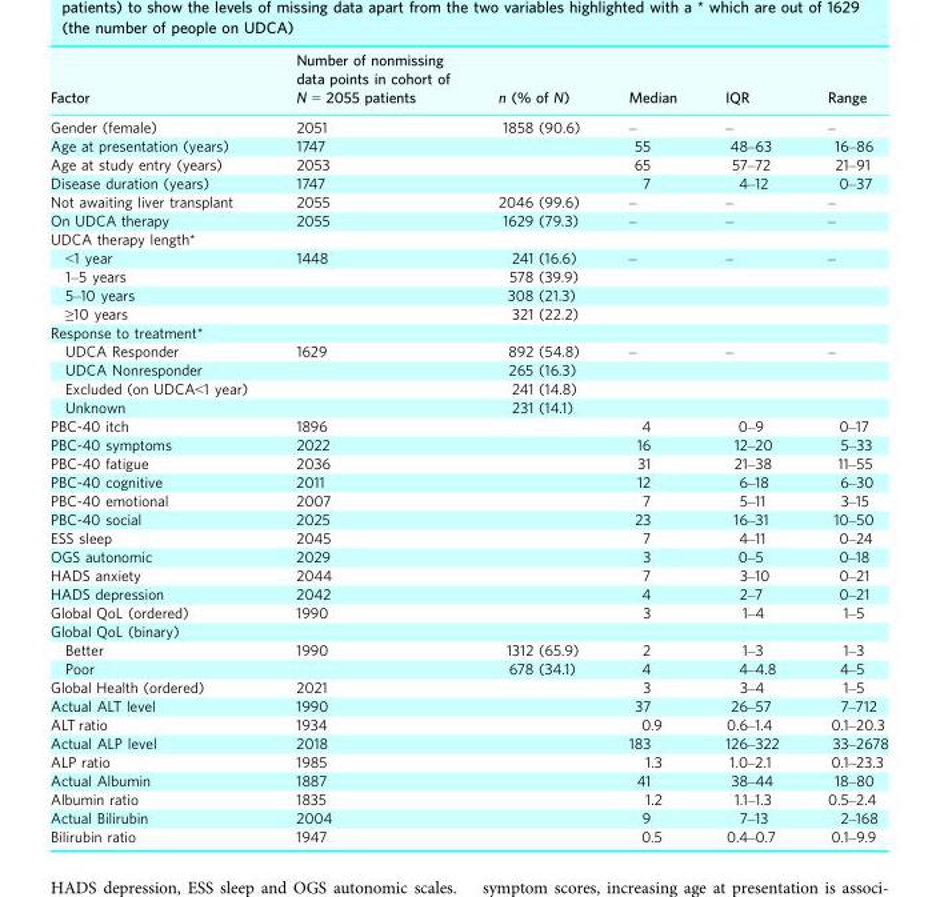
<table><thead><tr><td>Factor</td><td>Number of nonmissing data points in cohort of N = 2055 patients</td><td>n (% of N)</td><td>Median</td><td>IQR</td><td>Range</td></tr></thead><tbody><tr><td>Gender (female)</td><td>2051</td><td>1858 (90.6)</td><td>–</td><td>–</td><td>–</td></tr><tr><td>Age at presentation (years)</td><td>1747</td><td></td><td>55</td><td>48–63</td><td>16–86</td></tr><tr><td>Age at study entry (years)</td><td>2053</td><td></td><td>65</td><td>57–72</td><td>21–91</td></tr><tr><td>Disease duration (years)</td><td>1747</td><td></td><td>7</td><td>4–12</td><td>0–37</td></tr><tr><td>Not awaiting liver transplant</td><td>2055</td><td>2046 (99.6)</td><td>–</td><td>–</td><td>–</td></tr><tr><td>On UDCA therapy</td><td>2055</td><td>1629 (79.3)</td><td>–</td><td>–</td><td>–</td></tr><tr><td colspan="6">UDCA therapy length*</td></tr><tr><td>&lt;1 year</td><td>1448</td><td>241 (16.6)</td><td>–</td><td>–</td><td>–</td></tr><tr><td>1–5 years</td><td></td><td>578 (39.9)</td><td></td><td></td><td></td></tr><tr><td>5–10 years</td><td></td><td>308 (21.3)</td><td></td><td></td><td></td></tr><tr><td>≥10 years</td><td></td><td>321 (22.2)</td><td></td><td></td><td></td></tr><tr><td colspan="6">Response to treatment*</td></tr><tr><td>UDCA Responder</td><td>1629</td><td>892 (54.8)</td><td>–</td><td>–</td><td>–</td></tr><tr><td>UDCA Nonresponder</td><td></td><td>265 (16.3)</td><td></td><td></td><td></td></tr><tr><td>Excluded (on UDCA&lt;1 year)</td><td></td><td>241 (14.8)</td><td></td><td></td><td></td></tr><tr><td>Unknown</td><td></td><td>231 (14.1)</td><td></td><td></td><td></td></tr><tr><td>PBC-40 itch</td><td>1896</td><td></td><td>4</td><td>0–9</td><td>0–17</td></tr><tr><td>PBC-40 symptoms</td><td>2022</td><td></td><td>16</td><td>12–20</td><td>5–33</td></tr><tr><td>PBC-40 fatigue</td><td>2036</td><td></td><td>31</td><td>21–38</td><td>11–55</td></tr><tr><td>PBC-40 cognitive</td><td>2011</td><td></td><td>12</td><td>6–18</td><td>6–30</td></tr><tr><td>PBC-40 emotional</td><td>2007</td><td></td><td>7</td><td>5–11</td><td>3–15</td></tr><tr><td>PBC-40 social</td><td>2025</td><td></td><td>23</td><td>16–31</td><td>10–50</td></tr><tr><td>ESS sleep</td><td>2045</td><td></td><td>7</td><td>4–11</td><td>0–24</td></tr><tr><td>OGS autonomic</td><td>2029</td><td></td><td>3</td><td>0–5</td><td>0–18</td></tr><tr><td>HADS anxiety</td><td>2044</td><td></td><td>7</td><td>3–10</td><td>0–21</td></tr><tr><td>HADS depression</td><td>2042</td><td></td><td>4</td><td>2–7</td><td>0–21</td></tr><tr><td>Global QoL (ordered)</td><td>1990</td><td></td><td>3</td><td>1–4</td><td>1–5</td></tr><tr><td colspan="6">Global QoL (binary)</td></tr><tr><td>Better</td><td>1990</td><td>1312 (65.9)</td><td>2</td><td>1–3</td><td>1–3</td></tr><tr><td>Poor</td><td></td><td>678 (34.1)</td><td>4</td><td>4–4.8</td><td>4–5</td></tr><tr><td>Global Health (ordered)</td><td>2021</td><td></td><td>3</td><td>3–4</td><td>1–5</td></tr><tr><td>Actual ALT level</td><td>1990</td><td></td><td>37</td><td>26–57</td><td>7–712</td></tr><tr><td>ALT ratio</td><td>1934</td><td></td><td>0.9</td><td>0.6–1.4</td><td>0.1–20.3</td></tr><tr><td>Actual ALP level</td><td>2018</td><td></td><td>183</td><td>126–322</td><td>33–2678</td></tr><tr><td>ALP ratio</td><td>1985</td><td></td><td>1.3</td><td>1.0–2.1</td><td>0.1–23.3</td></tr><tr><td>Actual Albumin</td><td>1887</td><td></td><td>41</td><td>38–44</td><td>18–80</td></tr><tr><td>Albumin ratio</td><td>1835</td><td></td><td>1.2</td><td>1.1–1.3</td><td>0.5–2.4</td></tr><tr><td>Actual Bilirubin</td><td>2004</td><td></td><td>9</td><td>7–13</td><td>2–168</td></tr><tr><td>Bilirubin ratio</td><td>1947</td><td></td><td>0.5</td><td>0.4–0.7</td><td>0.1–9.9</td></tr></tbody></table>